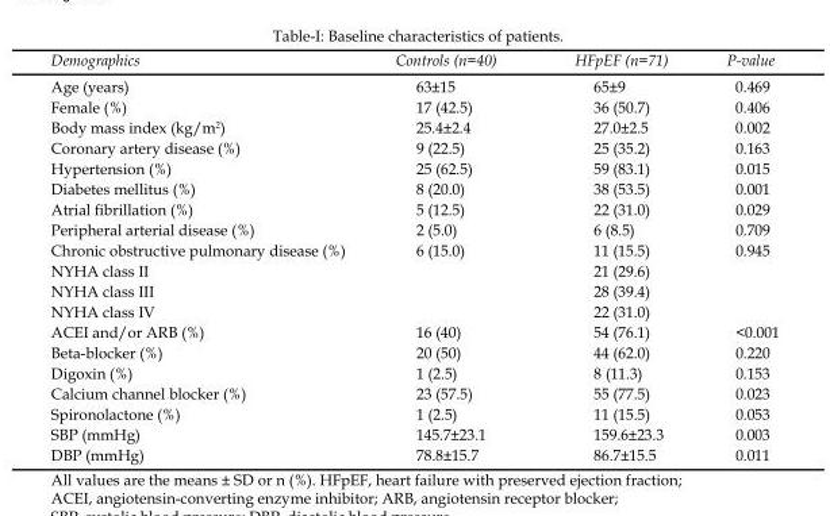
<table><thead><tr><td>Demographics</td><td>Controls (n=40)</td><td>HFpEF (n=71)</td><td>P-value</td></tr></thead><tbody><tr><td>Age (years)</td><td>63±15</td><td>65±9</td><td>0.469</td></tr><tr><td>Female (%)</td><td>17 (42.5)</td><td>36 (50.7)</td><td>0.406</td></tr><tr><td>Body mass index (kg/m<sup>2</sup>)</td><td>25.4±2.4</td><td>27.0±2.5</td><td>0.002</td></tr><tr><td>Coronary artery disease (%)</td><td>9 (22.5)</td><td>25 (35.2)</td><td>0.163</td></tr><tr><td>Hypertension (%)</td><td>25 (62.5)</td><td>59 (83.1)</td><td>0.015</td></tr><tr><td>Diabetes mellitus (%)</td><td>8 (20.0)</td><td>38 (53.5)</td><td>0.001</td></tr><tr><td>Atrial fibrillation (%)</td><td>5 (12.5)</td><td>22 (31.0)</td><td>0.029</td></tr><tr><td>Peripheral arterial disease (%)</td><td>2 (5.0)</td><td>6 (8.5)</td><td>0.709</td></tr><tr><td>Chronic obstructive pulmonary disease (%)</td><td>6 (15.0)</td><td>11 (15.5)</td><td>0.945</td></tr><tr><td>NYHA class II</td><td></td><td>21 (29.6)</td><td></td></tr><tr><td>NYHA class III</td><td></td><td>28 (39.4)</td><td></td></tr><tr><td>NYHA class IV</td><td></td><td>22 (31.0)</td><td></td></tr><tr><td>ACEI and/or ARB (%)</td><td>16 (40)</td><td>54 (76.1)</td><td>&lt;0.001</td></tr><tr><td>Beta-blocker (%)</td><td>20 (50)</td><td>44 (62.0)</td><td>0.220</td></tr><tr><td>Digoxin (%)</td><td>1 (2.5)</td><td>8 (11.3)</td><td>0.153</td></tr><tr><td>Calcium channel blocker (%)</td><td>23 (57.5)</td><td>55 (77.5)</td><td>0.023</td></tr><tr><td>Spironolactone (%)</td><td>1 (2.5)</td><td>11 (15.5)</td><td>0.053</td></tr><tr><td>SBP (mmHg)</td><td>145.7±23.1</td><td>159.6±23.3</td><td>0.003</td></tr><tr><td>DBP (mmHg)</td><td>78.8±15.7</td><td>86.7±15.5</td><td>0.011</td></tr></tbody></table>